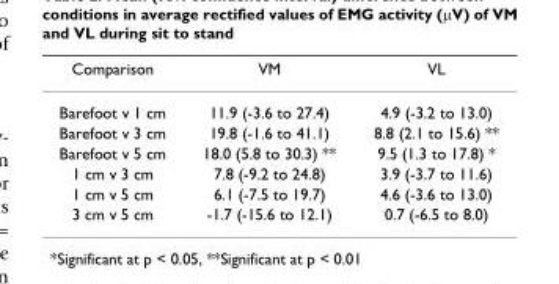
<table><thead><tr><td>Comparison</td><td>VM</td><td>VL</td></tr></thead><tbody><tr><td>Barefoot v 1 cm</td><td>11.9 (-3.6 to 27.4)</td><td>4.9 (-3.2 to 13.0)</td></tr><tr><td>Barefoot v 3 cm</td><td>19.8 (-1.6 to 41.1)</td><td>8.8 (2.1 to 15.6) **</td></tr><tr><td>Barefoot v 5 cm</td><td>18.0 (5.8 to 30.3) **</td><td>9.5 (1.3 to 17.8) *</td></tr><tr><td>1 cm v 3 cm</td><td>7.8 (-9.2 to 24.8)</td><td>3.9 (-3.7 to 11.6)</td></tr><tr><td>1 cm v 5 cm</td><td>6.1 (-7.5 to 19.7)</td><td>4.6 (-3.6 to 13.0)</td></tr><tr><td>3 cm v 5 cm</td><td>-1.7 (-15.6 to 12.1)</td><td>0.7 (-6.5 to 8.0)</td></tr></tbody></table>